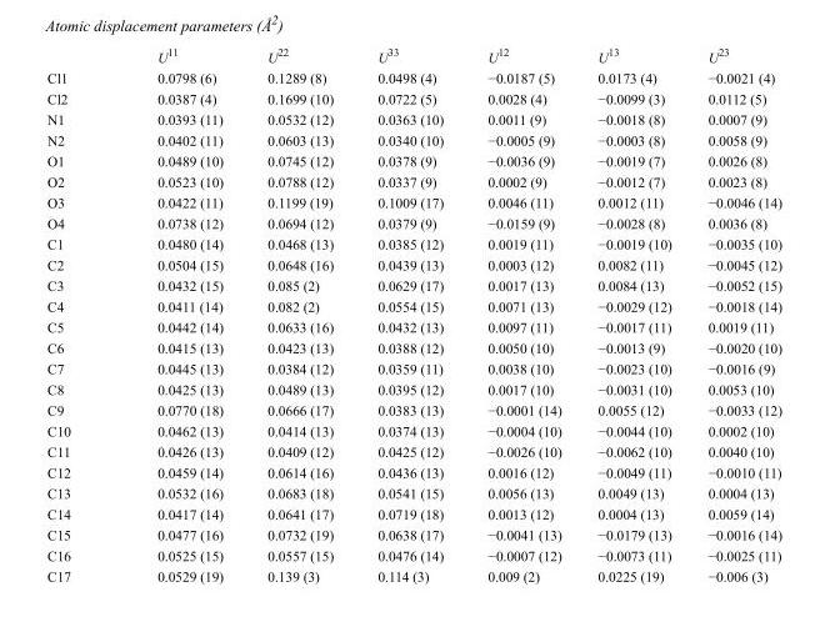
<table><thead><tr><td></td><td>U<sup>11</sup></td><td>U<sup>22</sup></td><td>U<sup>33</sup></td><td>U<sup>12</sup></td><td>U<sup>13</sup></td><td>U<sup>23</sup></td></tr></thead><tbody><tr><td>Cl1</td><td>0.0798 (6)</td><td>0.1289 (8)</td><td>0.0498 (4)</td><td>−0.0187 (5)</td><td>0.0173 (4)</td><td>−0.0021 (4)</td></tr><tr><td>Cl2</td><td>0.0387 (4)</td><td>0.1699 (10)</td><td>0.0722 (5)</td><td>0.0028 (4)</td><td>−0.0099 (3)</td><td>0.0112 (5)</td></tr><tr><td>N1</td><td>0.0393 (11)</td><td>0.0532 (12)</td><td>0.0363 (10)</td><td>0.0011 (9)</td><td>−0.0018 (8)</td><td>0.0007 (9)</td></tr><tr><td>N2</td><td>0.0402 (11)</td><td>0.0603 (13)</td><td>0.0340 (10)</td><td>−0.0005 (9)</td><td>−0.0003 (8)</td><td>0.0058 (9)</td></tr><tr><td>O1</td><td>0.0489 (10)</td><td>0.0745 (12)</td><td>0.0378 (9)</td><td>−0.0036 (9)</td><td>−0.0019 (7)</td><td>0.0026 (8)</td></tr><tr><td>O2</td><td>0.0523 (10)</td><td>0.0788 (12)</td><td>0.0337 (9)</td><td>0.0002 (9)</td><td>−0.0012 (7)</td><td>0.0023 (8)</td></tr><tr><td>O3</td><td>0.0422 (11)</td><td>0.1199 (19)</td><td>0.1009 (17)</td><td>0.0046 (11)</td><td>0.0012 (11)</td><td>−0.0046 (14)</td></tr><tr><td>O4</td><td>0.0738 (12)</td><td>0.0694 (12)</td><td>0.0379 (9)</td><td>−0.0159 (9)</td><td>−0.0028 (8)</td><td>0.0036 (8)</td></tr><tr><td>C1</td><td>0.0480 (14)</td><td>0.0468 (13)</td><td>0.0385 (12)</td><td>0.0019 (11)</td><td>−0.0019 (10)</td><td>−0.0035 (10)</td></tr><tr><td>C2</td><td>0.0504 (15)</td><td>0.0648 (16)</td><td>0.0439 (13)</td><td>0.0003 (12)</td><td>0.0082 (11)</td><td>−0.0045 (12)</td></tr><tr><td>C3</td><td>0.0432 (15)</td><td>0.085 (2)</td><td>0.0629 (17)</td><td>0.0017 (13)</td><td>0.0084 (13)</td><td>−0.0052 (15)</td></tr><tr><td>C4</td><td>0.0411 (14)</td><td>0.082 (2)</td><td>0.0554 (15)</td><td>0.0071 (13)</td><td>−0.0029 (12)</td><td>−0.0018 (14)</td></tr><tr><td>C5</td><td>0.0442 (14)</td><td>0.0633 (16)</td><td>0.0432 (13)</td><td>0.0097 (11)</td><td>−0.0017 (11)</td><td>0.0019 (11)</td></tr><tr><td>C6</td><td>0.0415 (13)</td><td>0.0423 (13)</td><td>0.0388 (12)</td><td>0.0050 (10)</td><td>−0.0013 (9)</td><td>−0.0020 (10)</td></tr><tr><td>C7</td><td>0.0445 (13)</td><td>0.0384 (12)</td><td>0.0359 (11)</td><td>0.0038 (10)</td><td>−0.0023 (10)</td><td>−0.0016 (9)</td></tr><tr><td>C8</td><td>0.0425 (13)</td><td>0.0489 (13)</td><td>0.0395 (12)</td><td>0.0017 (10)</td><td>−0.0031 (10)</td><td>0.0053 (10)</td></tr><tr><td>C9</td><td>0.0770 (18)</td><td>0.0666 (17)</td><td>0.0383 (13)</td><td>−0.0001 (14)</td><td>0.0055 (12)</td><td>−0.0033 (12)</td></tr><tr><td>C10</td><td>0.0462 (13)</td><td>0.0414 (13)</td><td>0.0374 (13)</td><td>−0.0004 (10)</td><td>−0.0044 (10)</td><td>0.0002 (10)</td></tr><tr><td>C11</td><td>0.0426 (13)</td><td>0.0409 (12)</td><td>0.0425 (12)</td><td>−0.0026 (10)</td><td>−0.0062 (10)</td><td>0.0040 (10)</td></tr><tr><td>C12</td><td>0.0459 (14)</td><td>0.0614 (16)</td><td>0.0436 (13)</td><td>0.0016 (12)</td><td>−0.0049 (11)</td><td>−0.0010 (11)</td></tr><tr><td>C13</td><td>0.0532 (16)</td><td>0.0683 (18)</td><td>0.0541 (15)</td><td>0.0056 (13)</td><td>0.0049 (13)</td><td>0.0004 (13)</td></tr><tr><td>C14</td><td>0.0417 (14)</td><td>0.0641 (17)</td><td>0.0719 (18)</td><td>0.0013 (12)</td><td>0.0004 (13)</td><td>0.0059 (14)</td></tr><tr><td>C15</td><td>0.0477 (16)</td><td>0.0732 (19)</td><td>0.0638 (17)</td><td>−0.0041 (13)</td><td>−0.0179 (13)</td><td>−0.0016 (14)</td></tr><tr><td>C16</td><td>0.0525 (15)</td><td>0.0557 (15)</td><td>0.0476 (14)</td><td>−0.0007 (12)</td><td>−0.0073 (11)</td><td>−0.0025 (11)</td></tr><tr><td>C17</td><td>0.0529 (19)</td><td>0.139 (3)</td><td>0.114 (3)</td><td>0.009 (2)</td><td>0.0225 (19)</td><td>−0.006 (3)</td></tr></tbody></table>